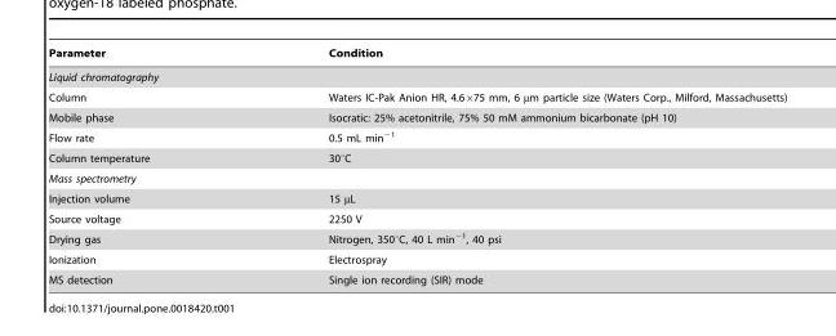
<table><thead><tr><td>Parameter</td><td>Condition</td></tr></thead><tbody><tr><td colspan="2">Liquid chromatography</td></tr><tr><td>Column</td><td>Waters IC-Pak Anion HR, 4.6×75 mm, 6 µm particle size (Waters Corp., Milford, Massachusetts)</td></tr><tr><td>Mobile phase</td><td>Isocratic: 25% acetonitrile, 75% 50 mM ammonium bicarbonate (pH 10)</td></tr><tr><td>Flow rate</td><td>0.5 mL min<sup>−1</sup></td></tr><tr><td>Column temperature</td><td>30°C</td></tr><tr><td colspan="2">Mass spectrometry</td></tr><tr><td>Injection volume</td><td>15 µL</td></tr><tr><td>Source voltage</td><td>2250 V</td></tr><tr><td>Drying gas</td><td>Nitrogen, 350°C, 40 L min<sup>−1</sup>, 40 psi</td></tr><tr><td>Ionization</td><td>Electrospray</td></tr><tr><td>MS detection</td><td>Single ion recording (SIR) mode</td></tr></tbody></table>